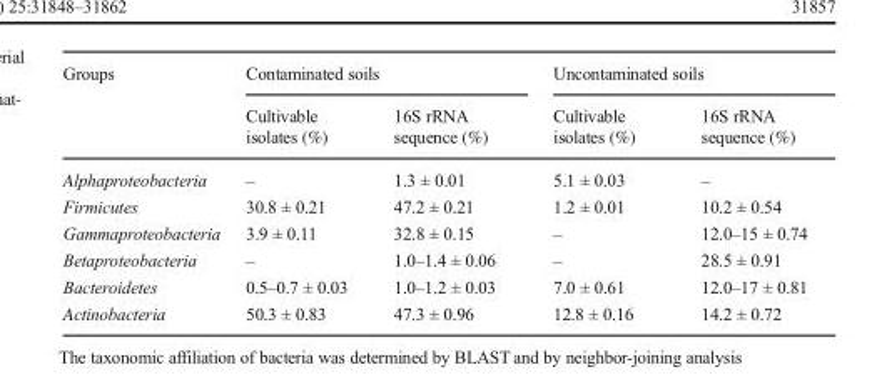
<table><thead><tr><td rowspan="2">Groups</td><td colspan="2">Contaminated soils</td><td colspan="2">Uncontaminated soils</td></tr><tr><td>Cultivable isolates (%)</td><td>16S rRNA sequence (%)</td><td>Cultivable isolates (%)</td><td>16S rRNA sequence (%)</td></tr></thead><tbody><tr><td>Alphaproteobacteria</td><td>–</td><td>1.3 ± 0.01</td><td>5.1 ± 0.03</td><td>–</td></tr><tr><td>Firmicutes</td><td>30.8 ± 0.21</td><td>47.2 ± 0.21</td><td>1.2 ± 0.01</td><td>10.2 ± 0.54</td></tr><tr><td>Gammaproteobacteria</td><td>3.9 ± 0.11</td><td>32.8 ± 0.15</td><td>–</td><td>12.0–15 ± 0.74</td></tr><tr><td>Betaproteobacteria</td><td>–</td><td>1.0–1.4 ± 0.06</td><td>–</td><td>28.5 ± 0.91</td></tr><tr><td>Bacteroidetes</td><td>0.5–0.7 ± 0.03</td><td>1.0–1.2 ± 0.03</td><td>7.0 ± 0.61</td><td>12.0–17 ± 0.81</td></tr><tr><td>Actinobacteria</td><td>50.3 ± 0.83</td><td>47.3 ± 0.96</td><td>12.8 ± 0.16</td><td>14.2 ± 0.72</td></tr></tbody></table>